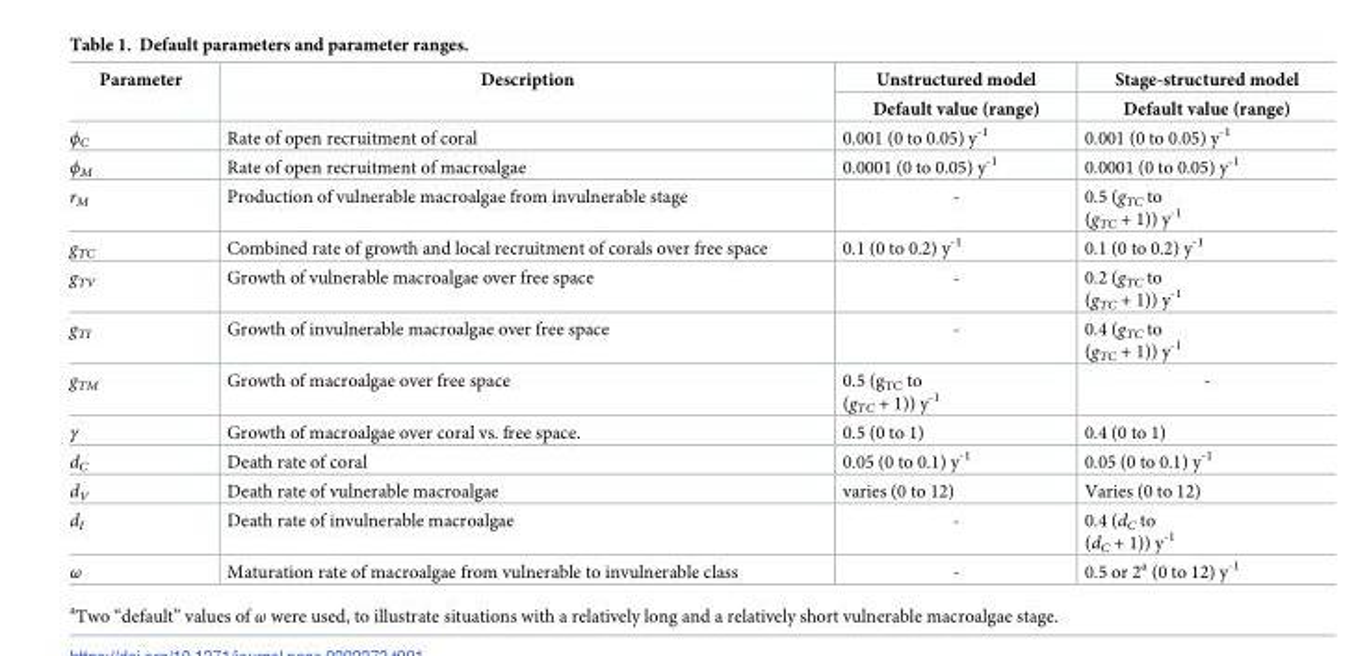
<table><thead><tr><td rowspan="2">Parameter</td><td rowspan="2">Description</td><td rowspan="2">Unstructured model Default value (range)</td><td rowspan="2">Stage-structured model Default value (range)</td></tr><tr></tr></thead><tbody><tr><td>ϕ<sub>C</sub></td><td>Rate of open recruitment of coral</td><td>0.001 (0 to 0.05) y<sup>-1</sup></td><td>0.001 (0 to 0.05) y<sup>-1</sup></td></tr><tr><td>ϕ<sub>M</sub></td><td>Rate of open recruitment of macroalgae</td><td>0.0001 (0 to 0.05) y<sup>-1</sup></td><td>0.0001 (0 to 0.05) y<sup>-1</sup></td></tr><tr><td>r<sub>M</sub></td><td>Production of vulnerable macroalgae from invulnerable stage</td><td>-</td><td>0.5 (g<sub>TC</sub> to (g<sub>TC</sub> + 1)) y<sup>-1</sup></td></tr><tr><td>g<sub>TC</sub></td><td>Combined rate of growth and local recruitment of corals over free space</td><td>0.1 (0 to 0.2) y<sup>-1</sup></td><td>0.1 (0 to 0.2) y<sup>-1</sup></td></tr><tr><td>g<sub>TV</sub></td><td>Growth of vulnerable macroalgae over free space</td><td>-</td><td>0.2 (g<sub>TC</sub> to (g<sub>TC</sub> + 1)) y<sup>-1</sup></td></tr><tr><td>g<sub>TI</sub></td><td>Growth of invulnerable macroalgae over free space</td><td>-</td><td>0.4 (g<sub>TC</sub> to (g<sub>TC</sub> + 1)) y<sup>-1</sup></td></tr><tr><td>g<sub>TM</sub></td><td>Growth of macroalgae over free space</td><td>0.5 (g<sub>TC</sub> to (g<sub>TC</sub> + 1)) y<sup>-1</sup></td><td>-</td></tr><tr><td>γ</td><td>Growth of macroalgae over coral vs. free space.</td><td>0.5 (0 to 1)</td><td>0.4 (0 to 1)</td></tr><tr><td>d<sub>C</sub></td><td>Death rate of coral</td><td>0.05 (0 to 0.1) y<sup>-1</sup></td><td>0.05 (0 to 0.1) y<sup>-1</sup></td></tr><tr><td>d<sub>V</sub></td><td>Death rate of vulnerable macroalgae</td><td>varies (0 to 12)</td><td>Varies (0 to 12)</td></tr><tr><td>d<sub>I</sub></td><td>Death rate of invulnerable macroalgae</td><td>-</td><td>0.4 (d<sub>C</sub> to (d<sub>C</sub> + 1)) y<sup>-1</sup></td></tr><tr><td>ω</td><td>Maturation rate of macroalgae from vulnerable to invulnerable class</td><td>-</td><td>0.5 or 2<sup>a</sup> (0 to 12) y<sup>-1</sup></td></tr></tbody></table>